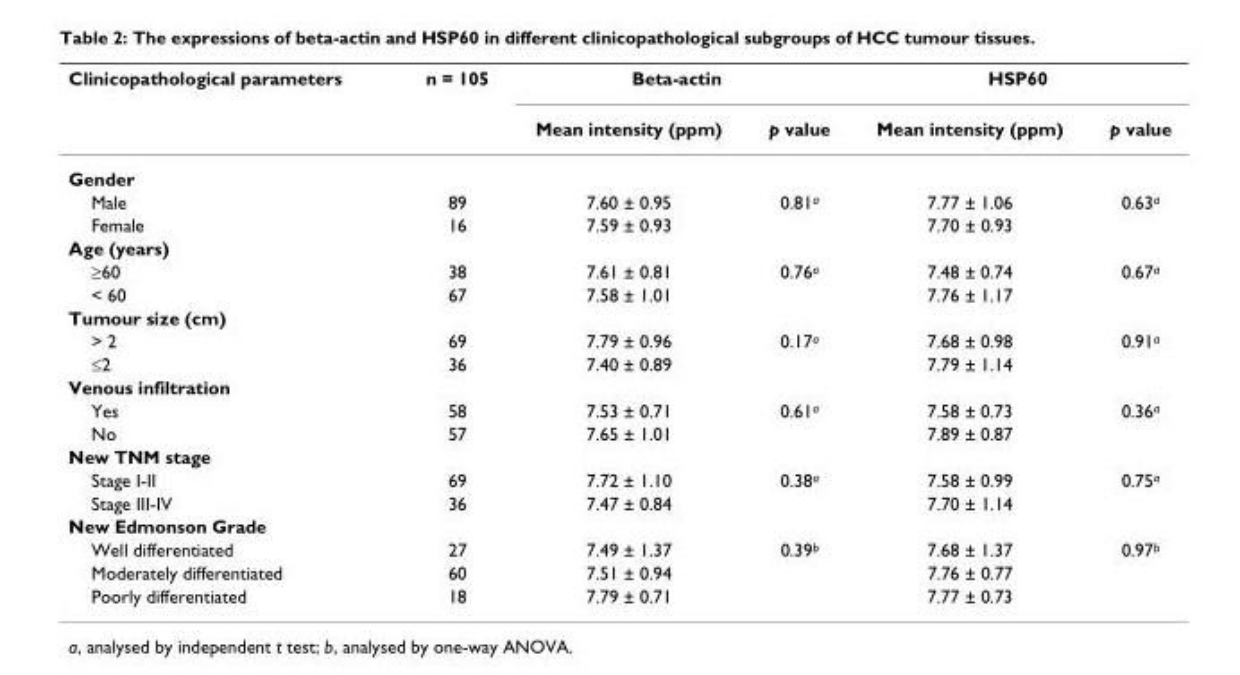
<table><thead><tr><td rowspan="2">Clinicopathological parameters</td><td rowspan="2">n = 105</td><td colspan="2">Beta-actin</td><td colspan="2">HSP60</td></tr><tr><td>Mean intensity (ppm)</td><td>p value</td><td>Mean intensity (ppm)</td><td>p value</td></tr></thead><tbody><tr><td colspan="6">Gender</td></tr><tr><td>Male</td><td>89</td><td>7.60 ± 0.95</td><td>0.81<sup>a</sup></td><td>7.77 ± 1.06</td><td>0.63<sup>a</sup></td></tr><tr><td>Female</td><td>16</td><td>7.59 ± 0.93</td><td></td><td>7.70 ± 0.93</td><td></td></tr><tr><td colspan="6">Age (years)</td></tr><tr><td>≥60</td><td>38</td><td>7.61 ± 0.81</td><td>0.76<sup>a</sup></td><td>7.48 ± 0.74</td><td>0.67<sup>a</sup></td></tr><tr><td>&lt; 60</td><td>67</td><td>7.58 ± 1.01</td><td></td><td>7.76 ± 1.17</td><td></td></tr><tr><td colspan="6">Tumour size (cm)</td></tr><tr><td>&gt; 2</td><td>69</td><td>7.79 ± 0.96</td><td>0.17<sup>a</sup></td><td>7.68 ± 0.98</td><td>0.91<sup>a</sup></td></tr><tr><td>≤2</td><td>36</td><td>7.40 ± 0.89</td><td></td><td>7.79 ± 1.14</td><td></td></tr><tr><td colspan="6">Venous infiltration</td></tr><tr><td>Yes</td><td>58</td><td>7.53 ± 0.71</td><td>0.61<sup>a</sup></td><td>7.58 ± 0.73</td><td>0.36<sup>a</sup></td></tr><tr><td>No</td><td>57</td><td>7.65 ± 1.01</td><td></td><td>7.89 ± 0.87</td><td></td></tr><tr><td colspan="6">New TNM stage</td></tr><tr><td>Stage I-II</td><td>69</td><td>7.72 ± 1.10</td><td>0.38<sup>a</sup></td><td>7.58 ± 0.99</td><td>0.75<sup>a</sup></td></tr><tr><td>Stage III-IV</td><td>36</td><td>7.47 ± 0.84</td><td></td><td>7.70 ± 1.14</td><td></td></tr><tr><td colspan="6">New Edmonson Grade</td></tr><tr><td>Well differentiated</td><td>27</td><td>7.49 ± 1.37</td><td>0.39<sup>b</sup></td><td>7.68 ± 1.37</td><td>0.97<sup>b</sup></td></tr><tr><td>Moderately differentiated</td><td>60</td><td>7.51 ± 0.94</td><td></td><td>7.76 ± 0.77</td><td></td></tr><tr><td>Poorly differentiated</td><td>18</td><td>7.79 ± 0.71</td><td></td><td>7.77 ± 0.73</td><td></td></tr></tbody></table>